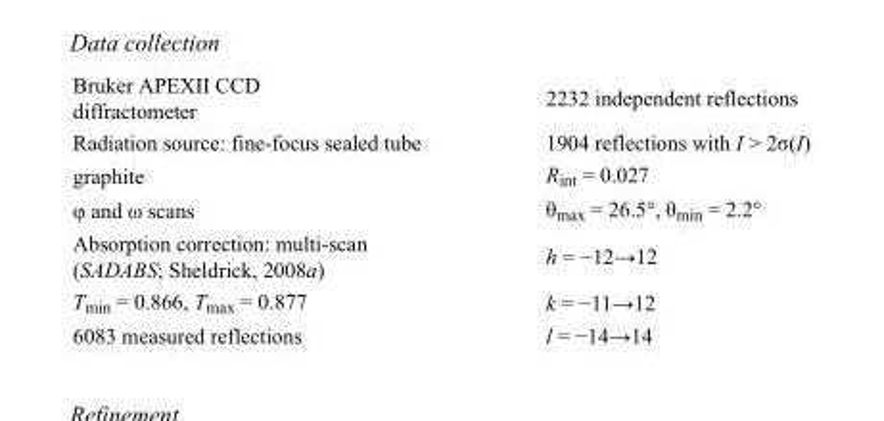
<table><tbody><tr><td>Bruker APEXII CCD diffractometer</td><td>2232 independent reflections</td></tr><tr><td>Radiation source: fine-focus sealed tube</td><td>1904 reflections with I &gt; 2σ(I)</td></tr><tr><td>graphite</td><td>R<sub>int</sub> = 0.027</td></tr><tr><td>φ and ω scans</td><td>θ<sub>max</sub> = 26.5°, θ<sub>min</sub> = 2.2°</td></tr><tr><td>Absorption correction: multi-scan (SADABS; Sheldrick, 2008a)</td><td>h = −12→12</td></tr><tr><td>T<sub>min</sub> = 0.866, T<sub>max</sub> = 0.877</td><td>k = −11→12</td></tr><tr><td>6083 measured reflections</td><td>l = −14→14</td></tr></tbody></table>